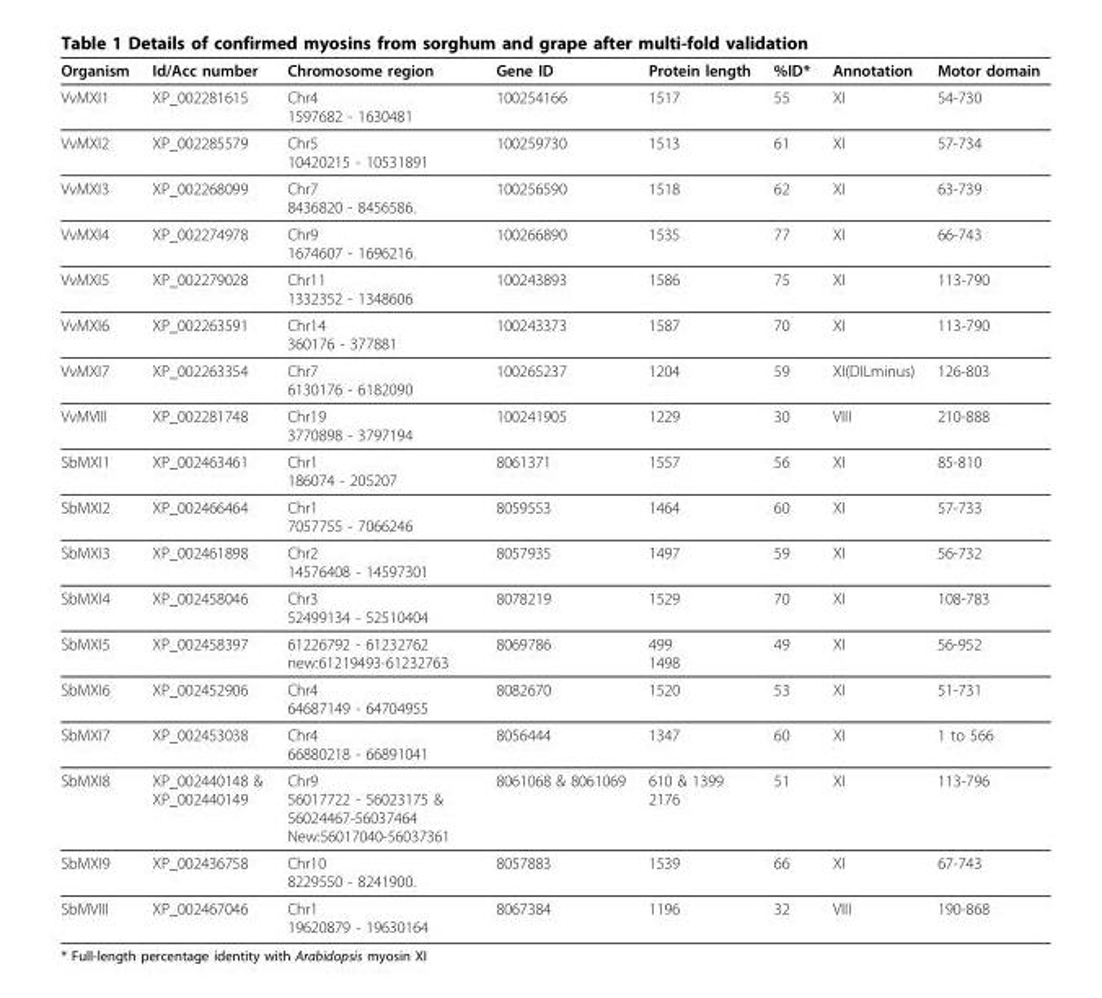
<table><thead><tr><td>Organism</td><td>Id/Acc number</td><td>Chromosome region</td><td>Gene ID</td><td>Protein length</td><td>%ID*</td><td>Annotation</td><td>Motor domain</td></tr></thead><tbody><tr><td>VvMXI1</td><td>XP_002281615</td><td>Chr4 1597682 - 1630481</td><td>100254166</td><td>1517</td><td>55</td><td>XI</td><td>54-730</td></tr><tr><td>VvMXI2</td><td>XP_002285579</td><td>Chr5 10420215 - 10531891</td><td>100259730</td><td>1513</td><td>61</td><td>XI</td><td>57-734</td></tr><tr><td>VvMXI3</td><td>XP_002268099</td><td>Chr7 8436820 - 8456586.</td><td>100256590</td><td>1518</td><td>62</td><td>XI</td><td>63-739</td></tr><tr><td>VvMXI4</td><td>XP_002274978</td><td>Chr9 1674607 - 1696216.</td><td>100266890</td><td>1535</td><td>77</td><td>XI</td><td>66-743</td></tr><tr><td>VvMXI5</td><td>XP_002279028</td><td>Chr11 1332352 - 1348606</td><td>100243893</td><td>1586</td><td>75</td><td>XI</td><td>113-790</td></tr><tr><td>VvMXI6</td><td>XP_002263591</td><td>Chr14 360176 - 377881</td><td>100243373</td><td>1587</td><td>70</td><td>XI</td><td>113-790</td></tr><tr><td>VvMXI7</td><td>XP_002263354</td><td>Chr7 6130176 - 6182090</td><td>100265237</td><td>1204</td><td>59</td><td>XI(DILminus)</td><td>126-803</td></tr><tr><td>VvMVIII</td><td>XP_002281748</td><td>Chr19 3770898 - 3797194</td><td>100241905</td><td>1229</td><td>30</td><td>VIII</td><td>210-888</td></tr><tr><td>SbMXI1</td><td>XP_002463461</td><td>Chr1 186074 - 205207</td><td>8061371</td><td>1557</td><td>56</td><td>XI</td><td>85-810</td></tr><tr><td>SbMXI2</td><td>XP_002466464</td><td>Chr1 7057755 - 7066246</td><td>8059553</td><td>1464</td><td>60</td><td>XI</td><td>57-733</td></tr><tr><td>SbMXI3</td><td>XP_002461898</td><td>Chr2 14576408 - 14597301</td><td>8057935</td><td>1497</td><td>59</td><td>XI</td><td>56-732</td></tr><tr><td>SbMXI4</td><td>XP_002458046</td><td>Chr3 52499134 - 52510404</td><td>8078219</td><td>1529</td><td>70</td><td>XI</td><td>108-783</td></tr><tr><td>SbMXI5</td><td>XP_002458397</td><td>61226792 - 61232762 new:61219493-61232763</td><td>8069786</td><td>499 1498</td><td>49</td><td>XI</td><td>56-952</td></tr><tr><td>SbMXI6</td><td>XP_002452906</td><td>Chr4 64687149 - 64704955</td><td>8082670</td><td>1520</td><td>53</td><td>XI</td><td>51-731</td></tr><tr><td>SbMXI7</td><td>XP_002453038</td><td>Chr4 66880218 - 66891041</td><td>8056444</td><td>1347</td><td>60</td><td>XI</td><td>1 to 566</td></tr><tr><td>SbMXI8</td><td>XP_002440148 &amp; XP_002440149</td><td>Chr9 56017722 - 56023175 &amp; 56024467-56037464 New:56017040-56037361</td><td>8061068 &amp; 8061069</td><td>610 &amp; 1399 2176</td><td>51</td><td>XI</td><td>113-796</td></tr><tr><td>SbMXI9</td><td>XP_002436758</td><td>Chr10 8229550 - 8241900.</td><td>8057883</td><td>1539</td><td>66</td><td>XI</td><td>67-743</td></tr><tr><td>SbMVIII</td><td>XP_002467046</td><td>Chr1 19620879 - 19630164</td><td>8067384</td><td>1196</td><td>32</td><td>VIII</td><td>190-868</td></tr></tbody></table>